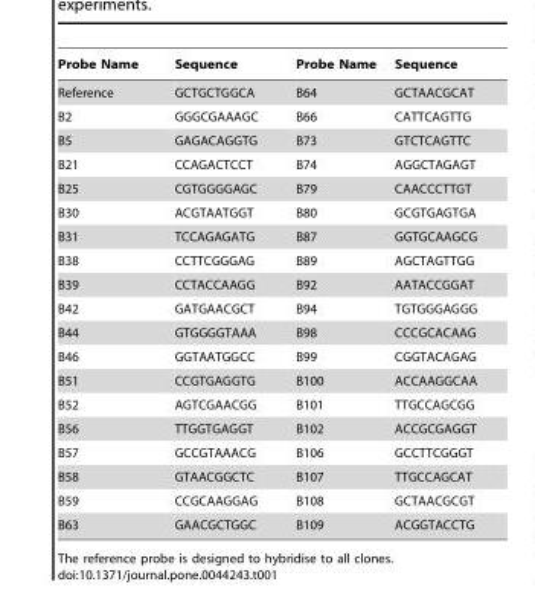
<table><thead><tr><td>Probe Name</td><td>Sequence</td><td>Probe Name</td><td>Sequence</td></tr></thead><tbody><tr><td>Reference</td><td>GCTGCTGGCA</td><td>B64</td><td>GCTAACGCAT</td></tr><tr><td>B2</td><td>GGGCGAAAGC</td><td>B66</td><td>CATTCAGTTG</td></tr><tr><td>B5</td><td>GAGACAGGTG</td><td>B73</td><td>GTCTCAGTTC</td></tr><tr><td>B21</td><td>CCAGACTCCT</td><td>B74</td><td>AGGCTAGAGT</td></tr><tr><td>B25</td><td>CGTGGGGAGC</td><td>B79</td><td>CAACCCTTGT</td></tr><tr><td>B30</td><td>ACGTAATGGT</td><td>B80</td><td>GCGTGAGTGA</td></tr><tr><td>B31</td><td>TCCAGAGATG</td><td>B87</td><td>GGTGCAAGCG</td></tr><tr><td>B38</td><td>CCTTCGGGAG</td><td>B89</td><td>AGCTAGTTGG</td></tr><tr><td>B39</td><td>CCTACCAAGG</td><td>B92</td><td>AATACCGGAT</td></tr><tr><td>B42</td><td>GATGAACGCT</td><td>B94</td><td>TGTGGGAGGG</td></tr><tr><td>B44</td><td>GTGGGGTAAA</td><td>B98</td><td>CCCGCACAAG</td></tr><tr><td>B46</td><td>GGTAATGGCC</td><td>B99</td><td>CGGTACAGAG</td></tr><tr><td>B51</td><td>CCGTGAGGTG</td><td>B100</td><td>ACCAAGGCAA</td></tr><tr><td>B52</td><td>AGTCGAACGG</td><td>B101</td><td>TTGCCAGCGG</td></tr><tr><td>B56</td><td>TTGGTGAGGT</td><td>B102</td><td>ACCGCGAGGT</td></tr><tr><td>B57</td><td>GCCGTAAACG</td><td>B106</td><td>GCCTTCGGGT</td></tr><tr><td>B58</td><td>GTAACGGCTC</td><td>B107</td><td>TTGCCAGCAT</td></tr><tr><td>B59</td><td>CCGCAAGGAG</td><td>B108</td><td>GCTAACGCGT</td></tr><tr><td>B63</td><td>GAACGCTGGC</td><td>B109</td><td>ACGGTACCTG</td></tr></tbody></table>